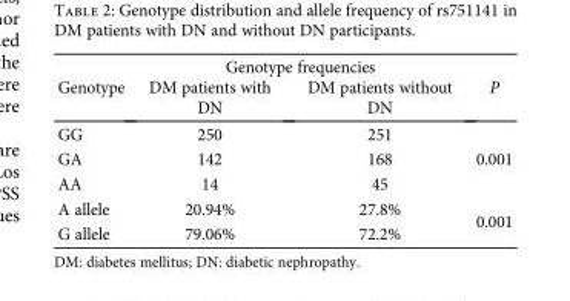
<table><thead><tr><td rowspan="2">Genotype</td><td colspan="2">Genotype frequencies</td><td rowspan="2">P</td></tr><tr><td>DM patients with DN</td><td>DM patients without DN</td></tr></thead><tbody><tr><td>GG</td><td>250</td><td>251</td><td rowspan="3">0.001</td></tr><tr><td>GA</td><td>142</td><td>168</td></tr><tr><td>AA</td><td>14</td><td>45</td></tr><tr><td>A allele</td><td>20.94%</td><td>27.8%</td><td rowspan="2">0.001</td></tr><tr><td>G allele</td><td>79.06%</td><td>72.2%</td></tr></tbody></table>